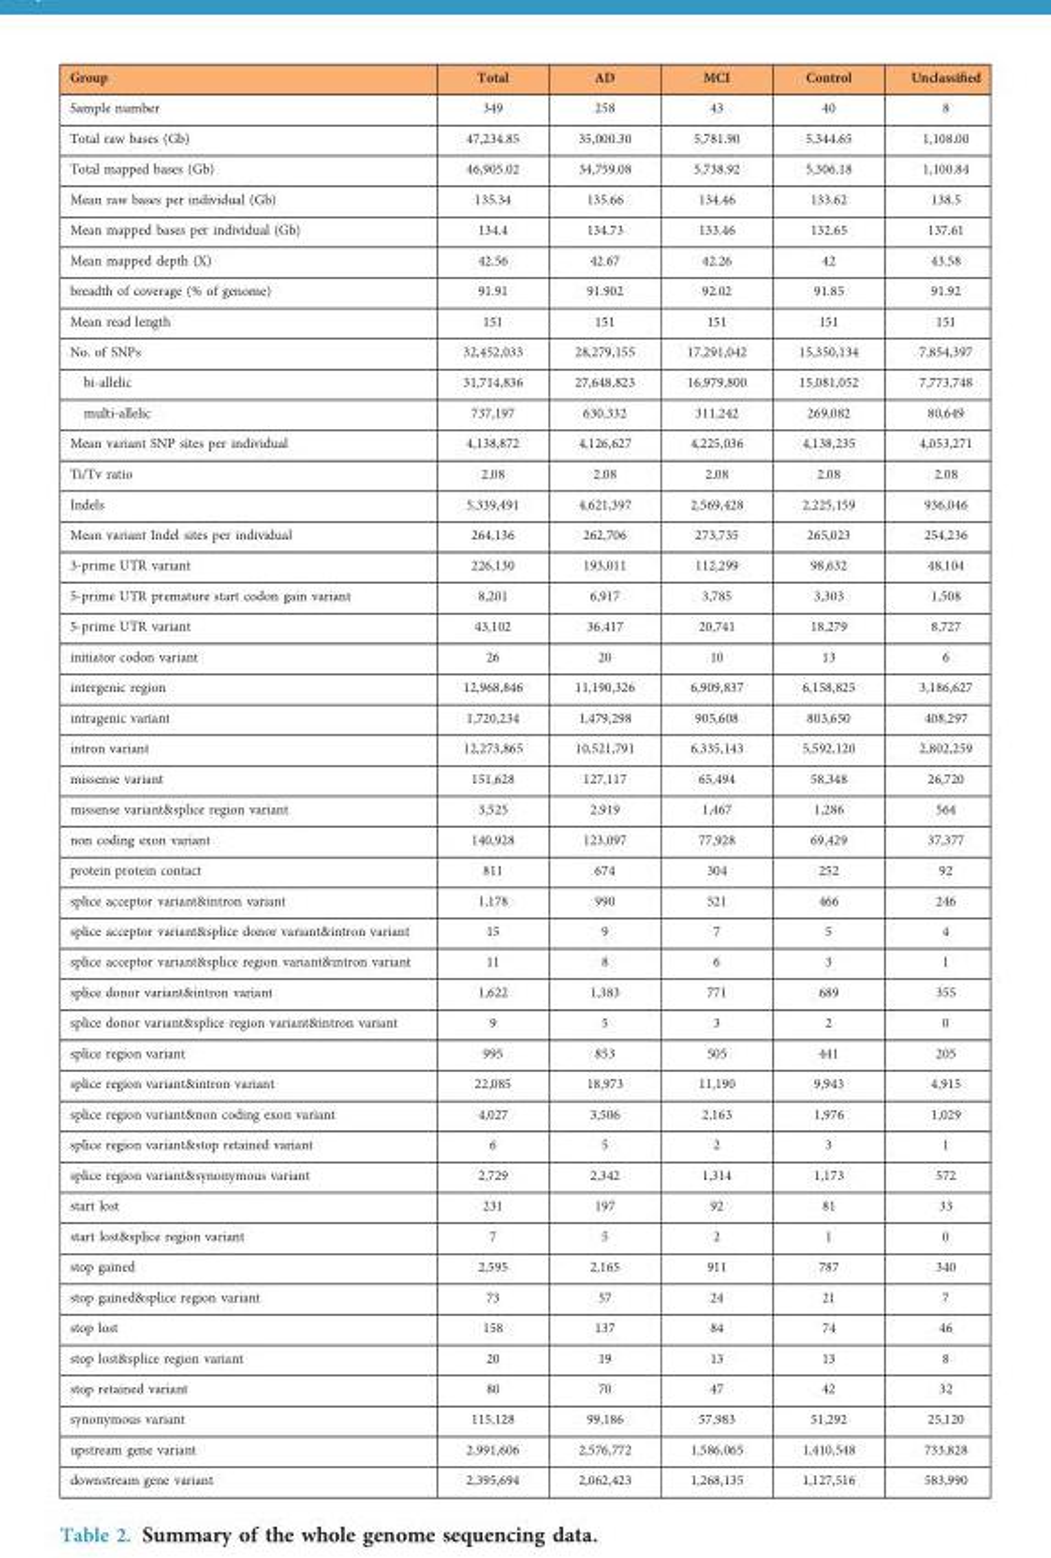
<table><thead><tr><td>Group</td><td>Total</td><td>AD</td><td>MCI</td><td>Control</td><td>Unclassified</td></tr></thead><tbody><tr><td>Sample number</td><td>349</td><td>258</td><td>43</td><td>40</td><td>8</td></tr><tr><td>Total raw bases (Gb)</td><td>47,234.85</td><td>35,000.30</td><td>5,781.90</td><td>5,344.65</td><td>1,108.00</td></tr><tr><td>Total mapped bases (Gb)</td><td>46,905.02</td><td>34,759.08</td><td>5,738.92</td><td>5,306.18</td><td>1,100.84</td></tr><tr><td>Mean raw bases per individual (Gb)</td><td>135.34</td><td>135.66</td><td>134.46</td><td>133.62</td><td>138.5</td></tr><tr><td>Mean mapped bases per individual (Gb)</td><td>134.4</td><td>134.73</td><td>133.46</td><td>132.65</td><td>137.61</td></tr><tr><td>Mean mapped depth (X)</td><td>42.56</td><td>42.67</td><td>42.26</td><td>42</td><td>43.58</td></tr><tr><td>breadth of coverage (% of genome)</td><td>91.91</td><td>91.902</td><td>92.02</td><td>91.85</td><td>91.92</td></tr><tr><td>Mean read length</td><td>151</td><td>151</td><td>151</td><td>151</td><td>151</td></tr><tr><td>No. of SNPs</td><td>32,452,033</td><td>28,279,155</td><td>17,291,042</td><td>15,350,134</td><td>7,854,397</td></tr><tr><td>bi-allelic</td><td>31,714,836</td><td>27,648,823</td><td>16,979,800</td><td>15,081,052</td><td>7,773,748</td></tr><tr><td>multi-allelic</td><td>737,197</td><td>630,332</td><td>311,242</td><td>269,082</td><td>80,649</td></tr><tr><td>Mean variant SNP sites per individual</td><td>4,138,872</td><td>4,126,627</td><td>4,225,036</td><td>4,138,235</td><td>4,053,271</td></tr><tr><td>Ti/Tv ratio</td><td>2.08</td><td>2.08</td><td>2.08</td><td>2.08</td><td>2.08</td></tr><tr><td>Indels</td><td>5,339,491</td><td>4,621,397</td><td>2,569,428</td><td>2,225,159</td><td>936,046</td></tr><tr><td>Mean variant Indel sites per individual</td><td>264,136</td><td>262,706</td><td>273,735</td><td>265,023</td><td>254,236</td></tr><tr><td>3-prime UTR variant</td><td>226,130</td><td>193,011</td><td>112,299</td><td>98,632</td><td>48,104</td></tr><tr><td>5-prime UTR premature start codon gain variant</td><td>8,201</td><td>6,917</td><td>3,785</td><td>3,303</td><td>1,508</td></tr><tr><td>5-prime UTR variant</td><td>43,102</td><td>36,417</td><td>20,741</td><td>18,279</td><td>8,727</td></tr><tr><td>initiator codon variant</td><td>26</td><td>20</td><td>10</td><td>13</td><td>6</td></tr><tr><td>intergenic region</td><td>12,968,846</td><td>11,190,326</td><td>6,909,837</td><td>6,158,825</td><td>3,186,627</td></tr><tr><td>intragenic variant</td><td>1,720,234</td><td>1,479,298</td><td>905,608</td><td>803,650</td><td>408,297</td></tr><tr><td>intron variant</td><td>12,273,865</td><td>10,521,791</td><td>6,335,143</td><td>5,592,120</td><td>2,802,259</td></tr><tr><td>missense variant</td><td>151,628</td><td>127,117</td><td>65,494</td><td>58,348</td><td>26,720</td></tr><tr><td>missense variant&amp;splice region variant</td><td>3,525</td><td>2,919</td><td>1,467</td><td>1,286</td><td>564</td></tr><tr><td>non coding exon variant</td><td>140,928</td><td>123,097</td><td>77,928</td><td>69,429</td><td>37,377</td></tr><tr><td>protein protein contact</td><td>811</td><td>674</td><td>304</td><td>252</td><td>92</td></tr><tr><td>splice acceptor variant&amp;intron variant</td><td>1,178</td><td>990</td><td>521</td><td>466</td><td>246</td></tr><tr><td>splice acceptor variant&amp;splice donor variant&amp;intron variant</td><td>15</td><td>9</td><td>7</td><td>5</td><td>4</td></tr><tr><td>splice acceptor variant&amp;splice region variant&amp;intron variant</td><td>11</td><td>8</td><td>6</td><td>3</td><td>1</td></tr><tr><td>splice donor variant&amp;intron variant</td><td>1,622</td><td>1,383</td><td>771</td><td>689</td><td>355</td></tr><tr><td>splice donor variant&amp;splice region variant&amp;intron variant</td><td>9</td><td>5</td><td>3</td><td>2</td><td>0</td></tr><tr><td>splice region variant</td><td>995</td><td>853</td><td>505</td><td>441</td><td>205</td></tr><tr><td>splice region variant&amp;intron variant</td><td>22,085</td><td>18,973</td><td>11,190</td><td>9,943</td><td>4,915</td></tr><tr><td>splice region variant&amp;non coding exon variant</td><td>4,027</td><td>3,506</td><td>2,163</td><td>1,976</td><td>1,029</td></tr><tr><td>splice region variant&amp;stop retained variant</td><td>6</td><td>5</td><td>2</td><td>3</td><td>1</td></tr><tr><td>splice region variant&amp;synonymous variant</td><td>2,729</td><td>2,342</td><td>1,314</td><td>1,173</td><td>572</td></tr><tr><td>start lost</td><td>231</td><td>197</td><td>92</td><td>81</td><td>33</td></tr><tr><td>start lost&amp;splice region variant</td><td>7</td><td>5</td><td>2</td><td>1</td><td>0</td></tr><tr><td>stop gained</td><td>2,595</td><td>2,165</td><td>911</td><td>787</td><td>340</td></tr><tr><td>stop gained&amp;splice region variant</td><td>73</td><td>57</td><td>24</td><td>21</td><td>7</td></tr><tr><td>stop lost</td><td>158</td><td>137</td><td>84</td><td>74</td><td>46</td></tr><tr><td>stop lost&amp;splice region variant</td><td>20</td><td>19</td><td>13</td><td>13</td><td>8</td></tr><tr><td>stop retained variant</td><td>80</td><td>70</td><td>47</td><td>42</td><td>32</td></tr><tr><td>synonymous variant</td><td>115,128</td><td>99,186</td><td>57,983</td><td>51,292</td><td>25,120</td></tr><tr><td>upstream gene variant</td><td>2,991,606</td><td>2,576,772</td><td>1,586,065</td><td>1,410,548</td><td>733,828</td></tr><tr><td>downstream gene variant</td><td>2,395,694</td><td>2,062,423</td><td>1,268,135</td><td>1,127,516</td><td>583,990</td></tr></tbody></table>